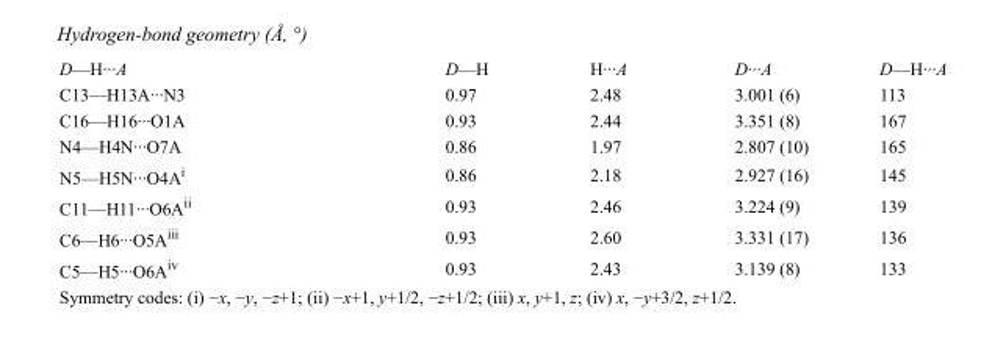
<table><tbody><tr><td>D—H···A</td><td>D—H</td><td>H···A</td><td>D···A</td><td>D—H···A</td></tr><tr><td>C13—H13A···N3</td><td>0.97</td><td>2.48</td><td>3.001 (6)</td><td>113</td></tr><tr><td>C16—H16···O1A</td><td>0.93</td><td>2.44</td><td>3.351 (8)</td><td>167</td></tr><tr><td>N4—H4N···O7A</td><td>0.86</td><td>1.97</td><td>2.807 (10)</td><td>165</td></tr><tr><td>N5—H5N···O4A<sup>i</sup></td><td>0.86</td><td>2.18</td><td>2.927 (16)</td><td>145</td></tr><tr><td>C11—H11···O6A<sup>ii</sup></td><td>0.93</td><td>2.46</td><td>3.224 (9)</td><td>139</td></tr><tr><td>C6—H6···O5A<sup>iii</sup></td><td>0.93</td><td>2.60</td><td>3.331 (17)</td><td>136</td></tr><tr><td>C5—H5···O6A<sup>iv</sup></td><td>0.93</td><td>2.43</td><td>3.139 (8)</td><td>133</td></tr></tbody></table>